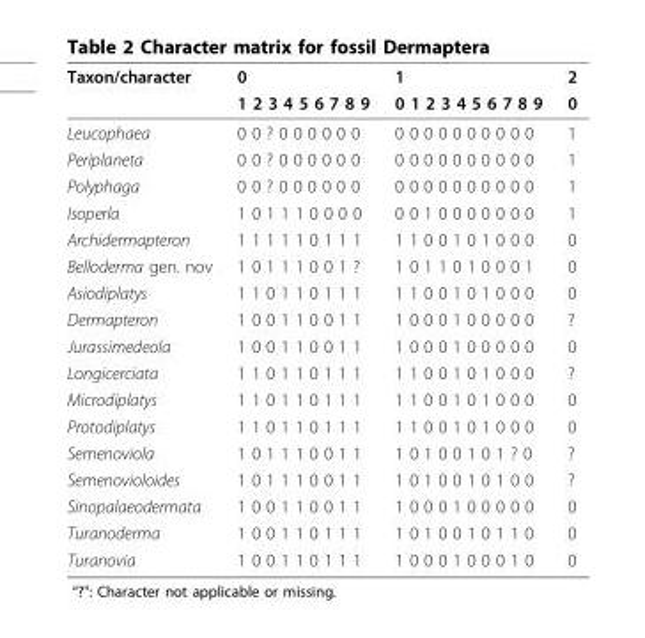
<table><thead><tr><td rowspan="2">Taxon/character</td><td rowspan="2">0 1 2 3 4 5 6 7 8 9</td><td rowspan="2">1 0 1 2 3 4 5 6 7 8 9</td><td rowspan="2">2 0</td></tr><tr></tr></thead><tbody><tr><td>Leucophaea</td><td>0 0 ? 0 0 0 0 0 0</td><td>0 0 0 0 0 0 0 0 0 0</td><td>1</td></tr><tr><td>Periplaneta</td><td>0 0 ? 0 0 0 0 0 0</td><td>0 0 0 0 0 0 0 0 0 0</td><td>1</td></tr><tr><td>Polyphaga</td><td>0 0 ? 0 0 0 0 0 0</td><td>0 0 0 0 0 0 0 0 0 0</td><td>1</td></tr><tr><td>Isoperla</td><td>1 0 1 1 1 0 0 0 0</td><td>0 0 1 0 0 0 0 0 0 0</td><td>1</td></tr><tr><td>Archidermapteron</td><td>1 1 1 1 1 0 1 1 1</td><td>1 1 0 0 1 0 1 0 0 0</td><td>0</td></tr><tr><td>Belloderma gen. nov</td><td>1 0 1 1 1 0 0 1 ?</td><td>1 0 1 1 0 1 0 0 0 1</td><td>0</td></tr><tr><td>Asiodiplatys</td><td>1 1 0 1 1 0 1 1 1</td><td>1 1 0 0 1 0 1 0 0 0</td><td>0</td></tr><tr><td>Dermapteron</td><td>1 0 0 1 1 0 0 1 1</td><td>1 0 0 0 1 0 0 0 0 0</td><td>?</td></tr><tr><td>Jurassimedeola</td><td>1 0 0 1 1 0 0 1 1</td><td>1 0 0 0 1 0 0 0 0 0</td><td>0</td></tr><tr><td>Longicerciata</td><td>1 1 0 1 1 0 1 1 1</td><td>1 1 0 0 1 0 1 0 0 0</td><td>?</td></tr><tr><td>Microdiplatys</td><td>1 1 0 1 1 0 1 1 1</td><td>1 1 0 0 1 0 1 0 0 0</td><td>0</td></tr><tr><td>Protodiplatys</td><td>1 1 0 1 1 0 1 1 1</td><td>1 1 0 0 1 0 1 0 0 0</td><td>0</td></tr><tr><td>Semenoviola</td><td>1 0 1 1 1 0 0 1 1</td><td>1 0 1 0 0 1 0 1 ? 0</td><td>?</td></tr><tr><td>Semenovioloides</td><td>1 0 1 1 1 0 0 1 1</td><td>1 0 1 0 0 1 0 1 0 0</td><td>?</td></tr><tr><td>Sinopalaeodermata</td><td>1 0 0 1 1 0 0 1 1</td><td>1 0 0 0 1 0 0 0 0 0</td><td>0</td></tr><tr><td>Turanoderma</td><td>1 0 0 1 1 0 1 1 1</td><td>1 0 1 0 0 1 0 1 1 0</td><td>0</td></tr><tr><td>Turanovia</td><td>1 0 0 1 1 0 1 1 1</td><td>1 0 0 0 1 0 0 0 1 0</td><td>0</td></tr></tbody></table>